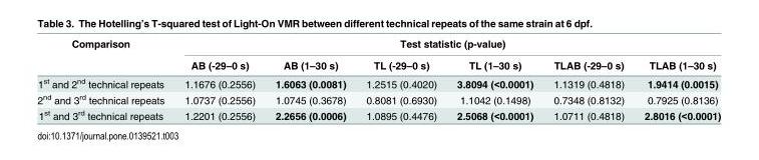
<table><thead><tr><td rowspan="2">Comparison</td><td colspan="6">Test statistic (p-value)</td></tr><tr><td>AB (-29–0 s)</td><td>AB (1–30 s)</td><td>TL (-29–0 s)</td><td>TL (1–30 s)</td><td>TLAB (-29–0 s)</td><td>TLAB (1–30 s)</td></tr></thead><tbody><tr><td>1<sup>st</sup> and 2<sup>nd</sup> technical repeats</td><td>1.1676 (0.2556)</td><td>1.6063 (0.0081)</td><td>1.2515 (0.4020)</td><td>3.8094 (&lt;0.0001)</td><td>1.1319 (0.4818)</td><td>1.9414 (0.0015)</td></tr><tr><td>2<sup>nd</sup> and 3<sup>rd</sup> technical repeats</td><td>1.0737 (0.2556)</td><td>1.0745 (0.3678)</td><td>0.8081 (0.6930)</td><td>1.1042 (0.1498)</td><td>0.7348 (0.8132)</td><td>0.7925 (0.8136)</td></tr><tr><td>1<sup>st</sup> and 3<sup>rd</sup> technical repeats</td><td>1.2201 (0.2556)</td><td>2.2656 (0.0006)</td><td>1.0895 (0.4476)</td><td>2.5068 (&lt;0.0001)</td><td>1.0711 (0.4818)</td><td>2.8016 (&lt;0.0001)</td></tr></tbody></table>